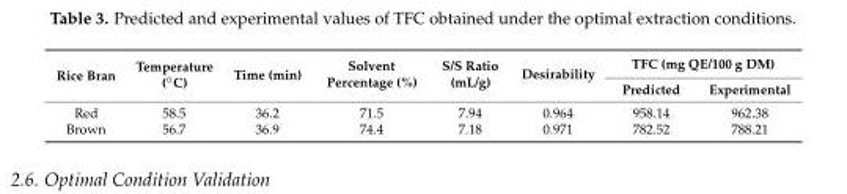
<table><thead><tr><td rowspan="2">Rice Bran</td><td rowspan="2">Temperature (◦C)</td><td rowspan="2">Time (min)</td><td rowspan="2">Solvent Percentage (%)</td><td rowspan="2">S/S Ratio (mL/g)</td><td rowspan="2">Desirability</td><td colspan="2">TFC (mg QE/100 g DM)</td></tr><tr><td>Predicted</td><td>Experimental</td></tr></thead><tbody><tr><td>Red</td><td>58.5</td><td>36.2</td><td>71.5</td><td>7.94</td><td>0.964</td><td>958.14</td><td>962.38</td></tr><tr><td>Brown</td><td>56.7</td><td>36.9</td><td>74.4</td><td>7.18</td><td>0.971</td><td>782.52</td><td>788.21</td></tr></tbody></table>